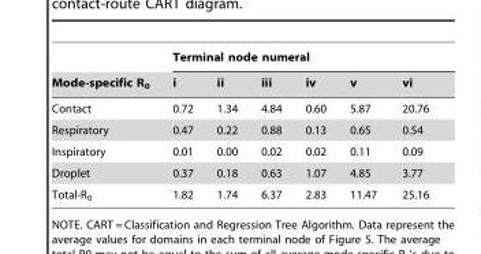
<table><thead><tr><td rowspan="2">Mode-specific R<sub>0</sub></td><td colspan="6">Terminal node numeral</td></tr><tr><td>i</td><td>ii</td><td>iii</td><td>iv</td><td>v</td><td>vi</td></tr></thead><tbody><tr><td>Contact</td><td>0.72</td><td>1.34</td><td>4.84</td><td>0.60</td><td>5.87</td><td>20.76</td></tr><tr><td>Respiratory</td><td>0.47</td><td>0.22</td><td>0.88</td><td>0.13</td><td>0.65</td><td>0.54</td></tr><tr><td>Inspiratory</td><td>0.01</td><td>0.00</td><td>0.02</td><td>0.02</td><td>0.11</td><td>0.09</td></tr><tr><td>Droplet</td><td>0.37</td><td>0.18</td><td>0.63</td><td>1.07</td><td>4.85</td><td>3.77</td></tr><tr><td>Total-R<sub>0</sub></td><td>1.82</td><td>1.74</td><td>6.37</td><td>2.83</td><td>11.47</td><td>25.16</td></tr></tbody></table>